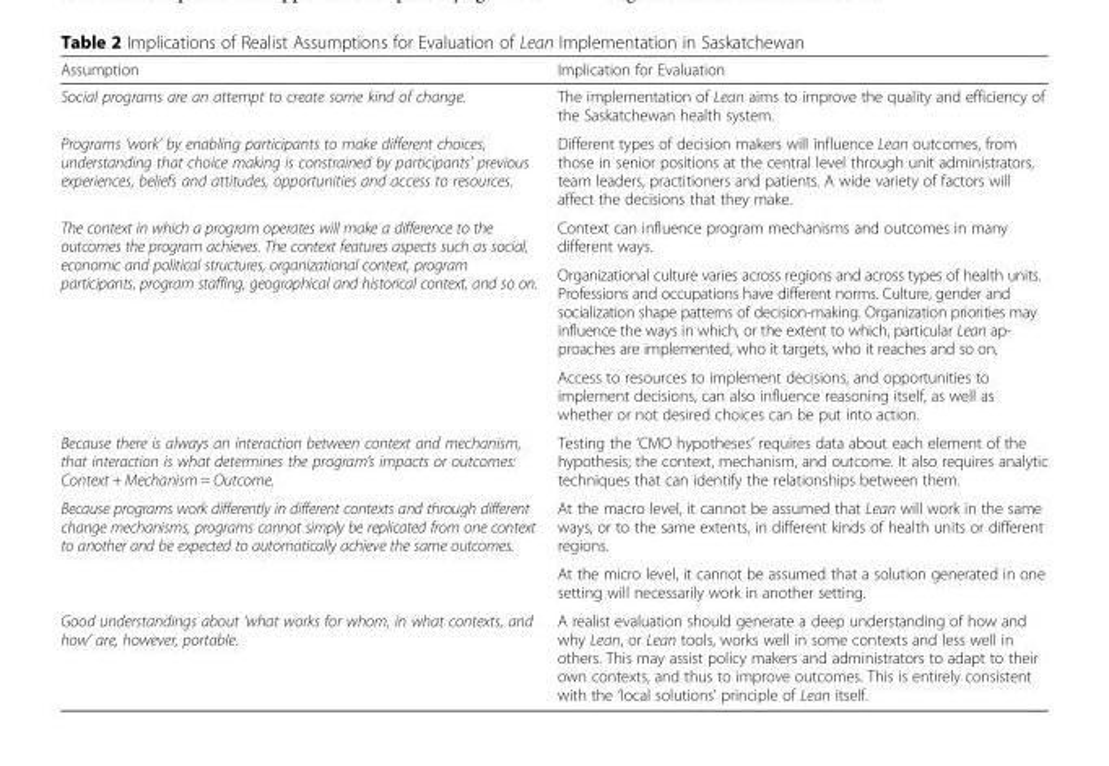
<table><thead><tr><td>Assumption</td><td>Implication for Evaluation</td></tr></thead><tbody><tr><td>Social programs are an attempt to create some kind of change.</td><td>The implementation of Lean aims to improve the quality and efficiency of the Saskatchewan health system.</td></tr><tr><td>Programs ‘work’ by enabling participants to make different choices, understanding that choice making is constrained by participants’ previous experiences, beliefs and attitudes, opportunities and access to resources.</td><td>Different types of decision makers will influence Lean outcomes, from those in senior positions at the central level through unit administrators, team leaders, practitioners and patients. A wide variety of factors will affect the decisions that they make.</td></tr><tr><td rowspan="3">The context in which a program operates will make a difference to the outcomes the program achieves. The context features aspects such as social, economic and political structures, organizational context, program participants, program staffing, geographical and historical context, and so on.</td><td>Context can influence program mechanisms and outcomes in many different ways.</td></tr><tr><td>Organizational culture varies across regions and across types of health units. Professions and occupations have different norms. Culture, gender and socialization shape patterns of decision-making. Organization priorities may influence the ways in which, or the extent to which, particular Lean ap- proaches are implemented, who it targets, who it reaches and so on.</td></tr><tr><td>Access to resources to implement decisions, and opportunities to implement decisions, can also influence reasoning itself, as well as whether or not desired choices can be put into action.</td></tr><tr><td>Because there is always an interaction between context and mechanism, that interaction is what determines the program’s impacts or outcomes: Context + Mechanism = Outcome.</td><td>Testing the ‘CMO hypotheses’ requires data about each element of the hypothesis; the context, mechanism, and outcome. It also requires analytic techniques that can identify the relationships between them.</td></tr><tr><td rowspan="2">Because programs work differently in different contexts and through different change mechanisms, programs cannot simply be replicated from one context to another and be expected to automatically achieve the same outcomes.</td><td>At the macro level, it cannot be assumed that Lean will work in the same ways, or to the same extents, in different kinds of health units or different regions.</td></tr><tr><td>At the micro level, it cannot be assumed that a solution generated in one setting will necessarily work in another setting.</td></tr><tr><td>Good understandings about ‘what works for whom, in what contexts, and how’ are, however, portable.</td><td>A realist evaluation should generate a deep understanding of how and why Lean, or Lean tools, works well in some contexts and less well in others. This may assist policy makers and administrators to adapt to their own contexts, and thus to improve outcomes. This is entirely consistent with the ‘local solutions’ principle of Lean itself.</td></tr></tbody></table>